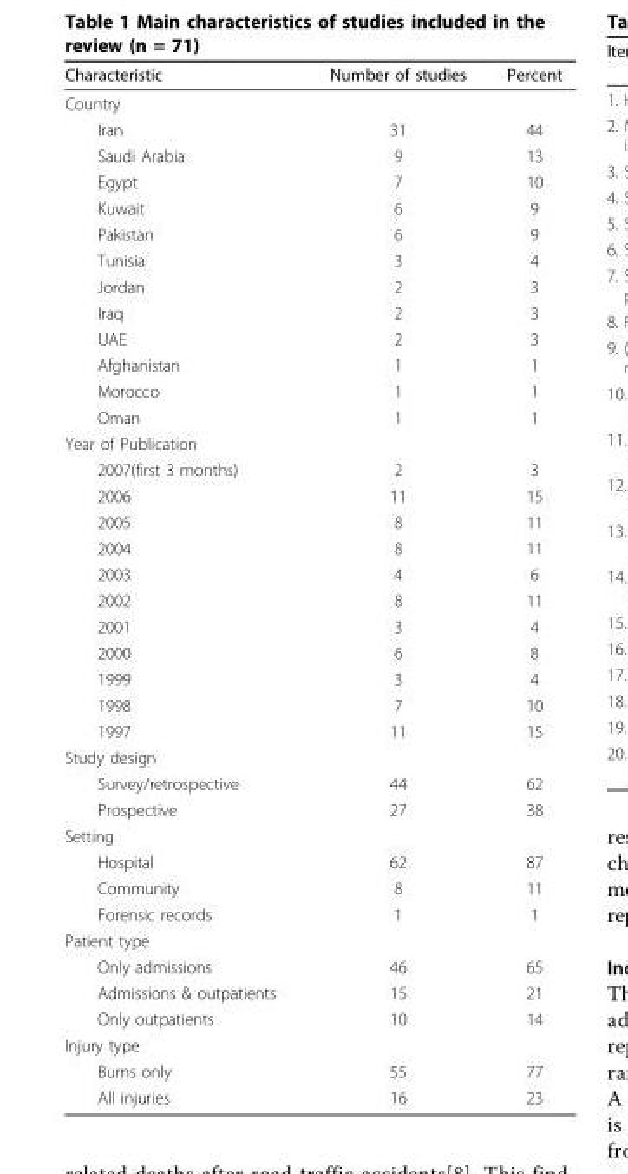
<table><thead><tr><td>Characteristic</td><td>Number of studies</td><td>Percent</td></tr></thead><tbody><tr><td colspan="3">Country</td></tr><tr><td>Iran</td><td>31</td><td>44</td></tr><tr><td>Saudi Arabia</td><td>9</td><td>13</td></tr><tr><td>Egypt</td><td>7</td><td>10</td></tr><tr><td>Kuwait</td><td>6</td><td>9</td></tr><tr><td>Pakistan</td><td>6</td><td>9</td></tr><tr><td>Tunisia</td><td>3</td><td>4</td></tr><tr><td>Jordan</td><td>2</td><td>3</td></tr><tr><td>Iraq</td><td>2</td><td>3</td></tr><tr><td>UAE</td><td>2</td><td>3</td></tr><tr><td>Afghanistan</td><td>1</td><td>1</td></tr><tr><td>Morocco</td><td>1</td><td>1</td></tr><tr><td>Oman</td><td>1</td><td>1</td></tr><tr><td colspan="3">Year of Publication</td></tr><tr><td>2007(first 3 months)</td><td>2</td><td>3</td></tr><tr><td>2006</td><td>11</td><td>15</td></tr><tr><td>2005</td><td>8</td><td>11</td></tr><tr><td>2004</td><td>8</td><td>11</td></tr><tr><td>2003</td><td>4</td><td>6</td></tr><tr><td>2002</td><td>8</td><td>11</td></tr><tr><td>2001</td><td>3</td><td>4</td></tr><tr><td>2000</td><td>6</td><td>8</td></tr><tr><td>1999</td><td>3</td><td>4</td></tr><tr><td>1998</td><td>7</td><td>10</td></tr><tr><td>1997</td><td>11</td><td>15</td></tr><tr><td colspan="3">Study design</td></tr><tr><td>Survey/retrospective</td><td>44</td><td>62</td></tr><tr><td>Prospective</td><td>27</td><td>38</td></tr><tr><td colspan="3">Setting</td></tr><tr><td>Hospital</td><td>62</td><td>87</td></tr><tr><td>Community</td><td>8</td><td>11</td></tr><tr><td>Forensic records</td><td>1</td><td>1</td></tr><tr><td colspan="3">Patient type</td></tr><tr><td>Only admissions</td><td>46</td><td>65</td></tr><tr><td>Admissions &amp; outpatients</td><td>15</td><td>21</td></tr><tr><td>Only outpatients</td><td>10</td><td>14</td></tr><tr><td colspan="3">Injury type</td></tr><tr><td>Burns only</td><td>55</td><td>77</td></tr><tr><td>All injuries</td><td>16</td><td>23</td></tr></tbody></table>